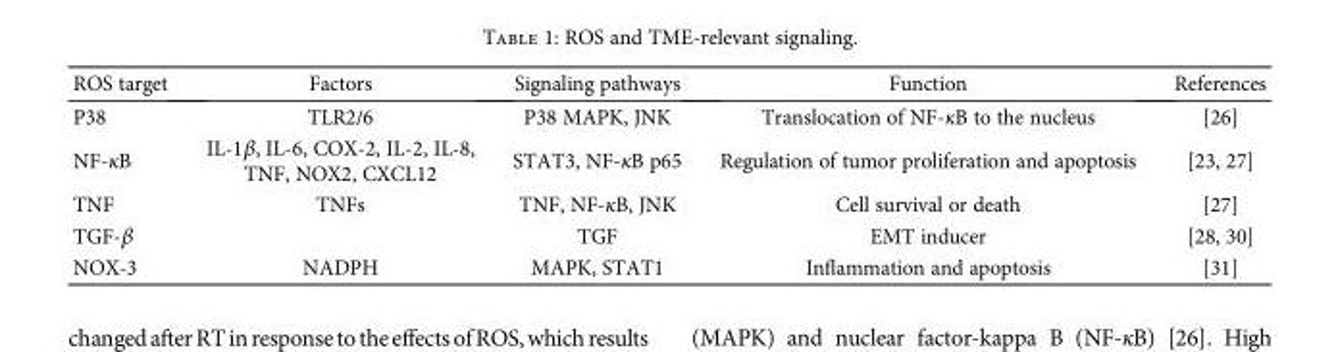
<table><thead><tr><td>ROS target</td><td>Factors</td><td>Signaling pathways</td><td>Function</td><td>References</td></tr></thead><tbody><tr><td>P38</td><td>TLR2/6</td><td>P38 MAPK, JNK</td><td>Translocation of NF-κB to the nucleus</td><td>[26]</td></tr><tr><td>NF-κB</td><td>IL-1β, IL-6, COX-2, IL-2, IL-8, TNF, NOX2, CXCL12</td><td>STAT3, NF-κB p65</td><td>Regulation of tumor proliferation and apoptosis</td><td>[23, 27]</td></tr><tr><td>TNF</td><td>TNFs</td><td>TNF, NF-κB, JNK</td><td>Cell survival or death</td><td>[27]</td></tr><tr><td>TGF-β</td><td></td><td>TGF</td><td>EMT inducer</td><td>[28, 30]</td></tr><tr><td>NOX-3</td><td>NADPH</td><td>MAPK, STAT1</td><td>Inflammation and apoptosis</td><td>[31]</td></tr></tbody></table>